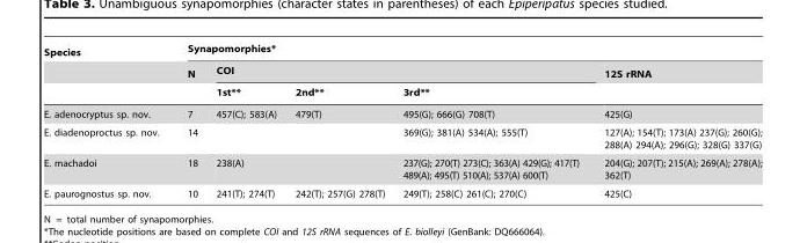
<table><thead><tr><td rowspan="3">Species</td><td colspan="5">Synapomorphies*</td></tr><tr><td rowspan="2">N</td><td colspan="3">COI</td><td rowspan="2">12S rRNA</td></tr><tr><td>1st**</td><td>2nd**</td><td>3rd**</td></tr></thead><tbody><tr><td>E. adenocryptus sp. nov.</td><td>7</td><td>457(C); 583(A)</td><td>479(T)</td><td>495(G); 666(G) 708(T)</td><td>425(G)</td></tr><tr><td>E. diadenoproctus sp. nov.</td><td>14</td><td></td><td></td><td>369(G); 381(A) 534(A); 555(T)</td><td>127(A); 154(T); 173(A) 237(G); 260(G); 288(A) 294(A); 296(G); 328(G) 337(G)</td></tr><tr><td>E. machadoi</td><td>18</td><td>238(A)</td><td></td><td>237(G); 270(T) 273(C); 363(A) 429(G); 417(T) 489(A); 495(T) 510(A); 537(A) 600(T)</td><td>204(G); 207(T); 215(A); 269(A); 278(A); 362(T)</td></tr><tr><td>E. paurognostus sp. nov.</td><td>10</td><td>241(T); 274(T)</td><td>242(T); 257(G) 278(T)</td><td>249(T); 258(C) 261(C); 270(C)</td><td>425(C)</td></tr></tbody></table>